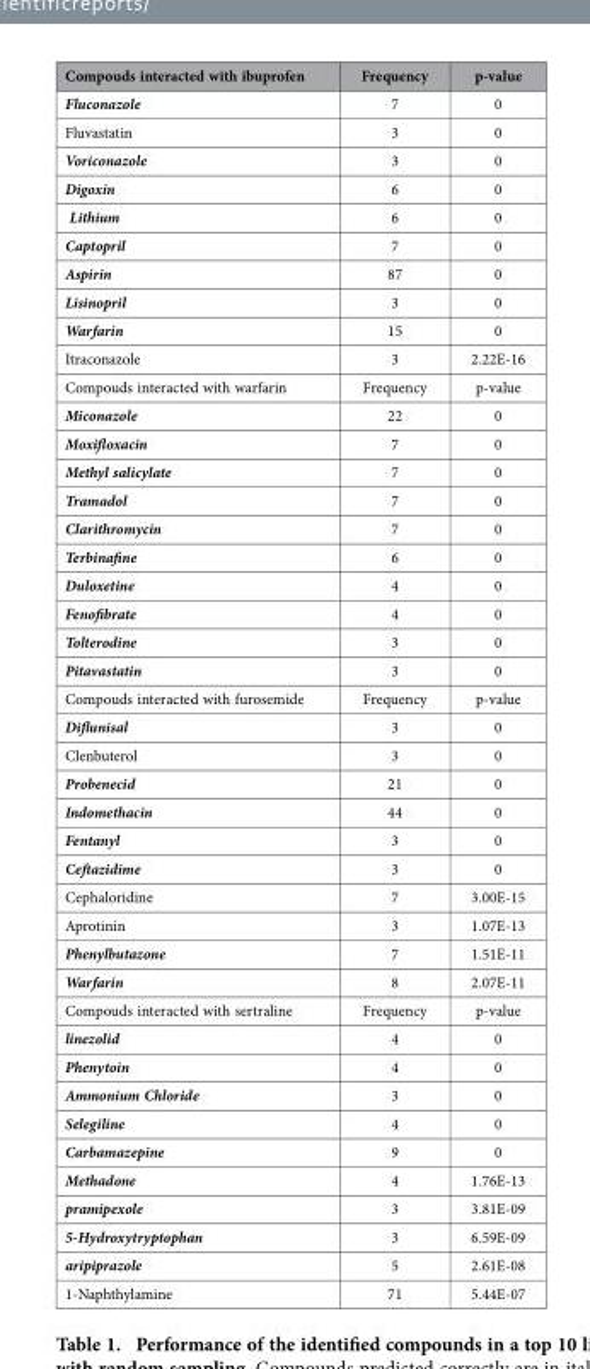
<table><thead><tr><td>Compouds interacted with ibuprofen</td><td>Frequency</td><td>p-value</td></tr></thead><tbody><tr><td>Fluconazole</td><td>7</td><td>0</td></tr><tr><td>Fluvastatin</td><td>3</td><td>0</td></tr><tr><td>Voriconazole</td><td>3</td><td>0</td></tr><tr><td>Digoxin</td><td>6</td><td>0</td></tr><tr><td>Lithium</td><td>6</td><td>0</td></tr><tr><td>Captopril</td><td>7</td><td>0</td></tr><tr><td>Aspirin</td><td>87</td><td>0</td></tr><tr><td>Lisinopril</td><td>3</td><td>0</td></tr><tr><td>Warfarin</td><td>15</td><td>0</td></tr><tr><td>Itraconazole</td><td>3</td><td>2.22E-16</td></tr><tr><td>Compouds interacted with warfarin</td><td>Frequency</td><td>p-value</td></tr><tr><td>Miconazole</td><td>22</td><td>0</td></tr><tr><td>Moxifloxacin</td><td>7</td><td>0</td></tr><tr><td>Methyl salicylate</td><td>7</td><td>0</td></tr><tr><td>Tramadol</td><td>7</td><td>0</td></tr><tr><td>Clarithromycin</td><td>7</td><td>0</td></tr><tr><td>Terbinafine</td><td>6</td><td>0</td></tr><tr><td>Duloxetine</td><td>4</td><td>0</td></tr><tr><td>Fenofibrate</td><td>4</td><td>0</td></tr><tr><td>Tolterodine</td><td>3</td><td>0</td></tr><tr><td>Pitavastatin</td><td>3</td><td>0</td></tr><tr><td>Compouds interacted with furosemide</td><td>Frequency</td><td>p-value</td></tr><tr><td>Diflunisal</td><td>3</td><td>0</td></tr><tr><td>Clenbuterol</td><td>3</td><td>0</td></tr><tr><td>Probenecid</td><td>21</td><td>0</td></tr><tr><td>Indomethacin</td><td>44</td><td>0</td></tr><tr><td>Fentanyl</td><td>3</td><td>0</td></tr><tr><td>Ceftazidime</td><td>3</td><td>0</td></tr><tr><td>Cephaloridine</td><td>7</td><td>3.00E-15</td></tr><tr><td>Aprotinin</td><td>3</td><td>1.07E-13</td></tr><tr><td>Phenylbutazone</td><td>7</td><td>1.51E-11</td></tr><tr><td>Warfarin</td><td>8</td><td>2.07E-11</td></tr><tr><td>Compouds interacted with sertraline</td><td>Frequency</td><td>p-value</td></tr><tr><td>linezolid</td><td>4</td><td>0</td></tr><tr><td>Phenytoin</td><td>4</td><td>0</td></tr><tr><td>Ammonium Chloride</td><td>3</td><td>0</td></tr><tr><td>Selegiline</td><td>4</td><td>0</td></tr><tr><td>Carbamazepine</td><td>9</td><td>0</td></tr><tr><td>Methadone</td><td>4</td><td>1.76E-13</td></tr><tr><td>pramipexole</td><td>3</td><td>3.81E-09</td></tr><tr><td>5-Hydroxytryptophan</td><td>3</td><td>6.59E-09</td></tr><tr><td>aripiprazole</td><td>5</td><td>2.61E-08</td></tr><tr><td>1-Naphthylamine</td><td>71</td><td>5.44E-07</td></tr></tbody></table>